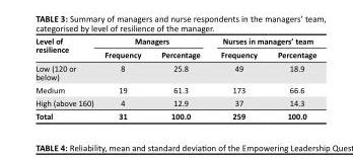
<table><thead><tr><td rowspan="2">Level of resilience</td><td colspan="2">Managers</td><td colspan="2">Nurses in managers’ team</td></tr><tr><td>Frequency</td><td>Percentage</td><td>Frequency</td><td>Percentage</td></tr></thead><tbody><tr><td>Low (120 or below)</td><td>8</td><td>25.8</td><td>49</td><td>18.9</td></tr><tr><td>Medium</td><td>19</td><td>61.3</td><td>173</td><td>66.6</td></tr><tr><td>High (above 160)</td><td>4</td><td>12.9</td><td>37</td><td>14.3</td></tr><tr><td>Total</td><td>31</td><td>100.0</td><td>259</td><td>100.0</td></tr></tbody></table>